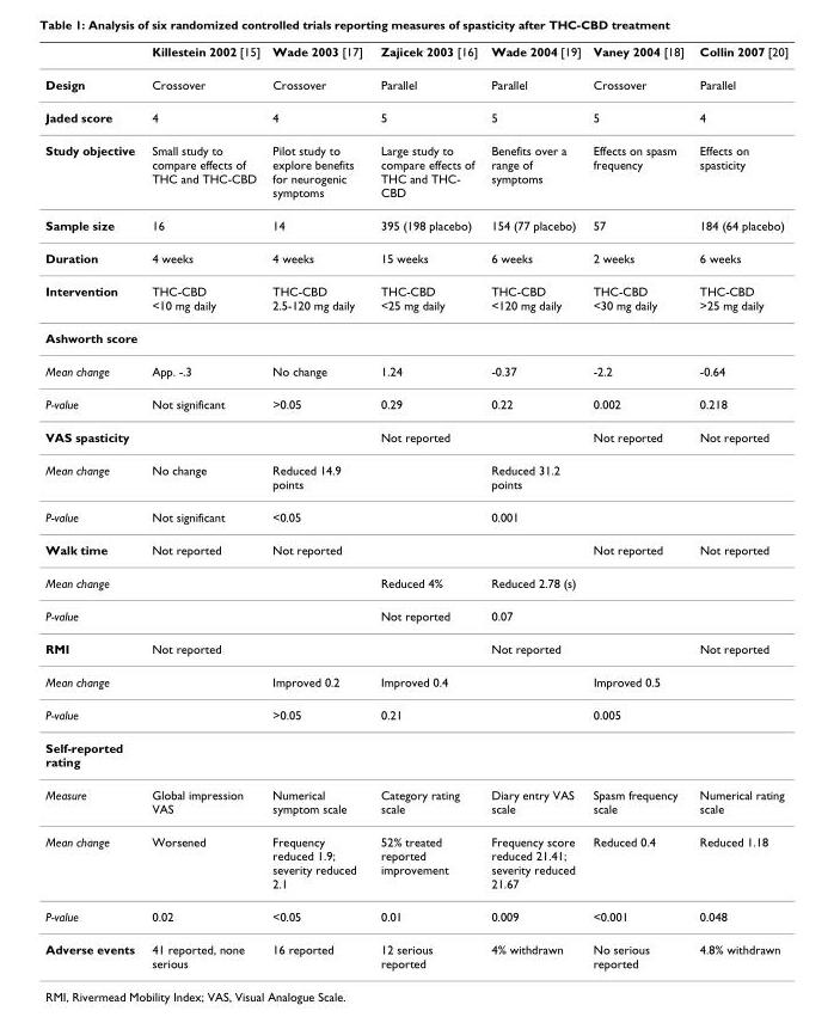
<table><thead><tr><td></td><td>Killestein 2002 [15]</td><td>Wade 2003 [17]</td><td>Zajicek 2003 [16]</td><td>Wade 2004 [19]</td><td>Vaney 2004 [18]</td><td>Collin 2007 [20]</td></tr></thead><tbody><tr><td>Design</td><td>Crossover</td><td>Crossover</td><td>Parallel</td><td>Parallel</td><td>Crossover</td><td>Parallel</td></tr><tr><td>Jaded score</td><td>4</td><td>4</td><td>5</td><td>5</td><td>5</td><td>4</td></tr><tr><td>Study objective</td><td>Small study to compare effects of THC and THC-CBD</td><td>Pilot study to explore benefits for neurogenic symptoms</td><td>Large study to compare effects of THC and THC- CBD</td><td>Benefits over a range of symptoms</td><td>Effects on spasm frequency</td><td>Effects on spasticity</td></tr><tr><td>Sample size</td><td>16</td><td>14</td><td>395 (198 placebo)</td><td>154 (77 placebo)</td><td>57</td><td>184 (64 placebo)</td></tr><tr><td>Duration</td><td>4 weeks</td><td>4 weeks</td><td>15 weeks</td><td>6 weeks</td><td>2 weeks</td><td>6 weeks</td></tr><tr><td>Intervention</td><td>THC-CBD &lt;10 mg daily</td><td>THC-CBD 2.5-120 mg daily</td><td>THC-CBD &lt;25 mg daily</td><td>THC-CBD &lt;120 mg daily</td><td>THC-CBD &lt;30 mg daily</td><td>THC-CBD &gt;25 mg daily</td></tr><tr><td colspan="7">Ashworth score</td></tr><tr><td>Mean change</td><td>App. -.3</td><td>No change</td><td>1.24</td><td>-0.37</td><td>-2.2</td><td>-0.64</td></tr><tr><td>P-value</td><td>Not significant</td><td>&gt;0.05</td><td>0.29</td><td>0.22</td><td>0.002</td><td>0.218</td></tr><tr><td>VAS spasticity</td><td></td><td></td><td>Not reported</td><td></td><td>Not reported</td><td>Not reported</td></tr><tr><td>Mean change</td><td>No change</td><td>Reduced 14.9 points</td><td></td><td>Reduced 31.2 points</td><td></td><td></td></tr><tr><td>P-value</td><td>Not significant</td><td>&lt;0.05</td><td></td><td>0.001</td><td></td><td></td></tr><tr><td>Walk time</td><td>Not reported</td><td>Not reported</td><td></td><td></td><td>Not reported</td><td>Not reported</td></tr><tr><td>Mean change</td><td></td><td></td><td>Reduced 4%</td><td>Reduced 2.78 (s)</td><td></td><td></td></tr><tr><td>P-value</td><td></td><td></td><td>Not reported</td><td>0.07</td><td></td><td></td></tr><tr><td>RMI</td><td>Not reported</td><td></td><td></td><td>Not reported</td><td></td><td>Not reported</td></tr><tr><td>Mean change</td><td></td><td>Improved 0.2</td><td>Improved 0.4</td><td></td><td>Improved 0.5</td><td></td></tr><tr><td>P-value</td><td></td><td>&gt;0.05</td><td>0.21</td><td></td><td>0.005</td><td></td></tr><tr><td colspan="7">Self-reported rating</td></tr><tr><td>Measure</td><td>Global impression VAS</td><td>Numerical symptom scale</td><td>Category rating scale</td><td>Diary entry VAS scale</td><td>Spasm frequency scale</td><td>Numerical rating scale</td></tr><tr><td>Mean change</td><td>Worsened</td><td>Frequency reduced 1.9; severity reduced 2.1</td><td>52% treated reported improvement</td><td>Frequency score reduced 21.41; severity reduced 21.67</td><td>Reduced 0.4</td><td>Reduced 1.18</td></tr><tr><td>P-value</td><td>0.02</td><td>&lt;0.05</td><td>0.01</td><td>0.009</td><td>&lt;0.001</td><td>0.048</td></tr><tr><td>Adverse events</td><td>41 reported, none serious</td><td>16 reported</td><td>12 serious reported</td><td>4% withdrawn</td><td>No serious reported</td><td>4.8% withdrawn</td></tr></tbody></table>